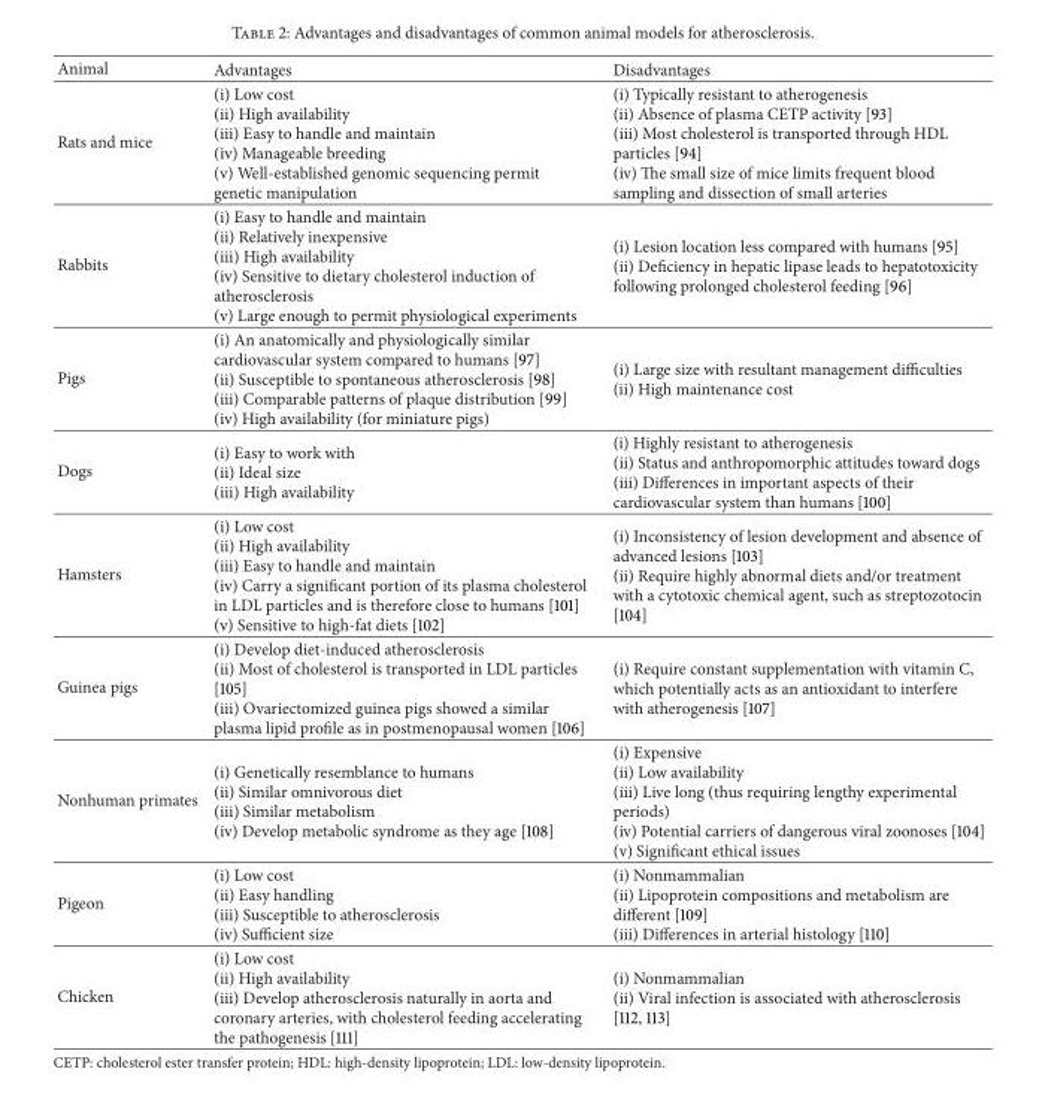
<table><thead><tr><td>Animal</td><td>Advantages</td><td>Disadvantages</td></tr></thead><tbody><tr><td>Rats and mice</td><td>(i) Low cost (ii) High availability (iii) Easy to handle and maintain (iv) Manageable breeding (v) Well-established genomic sequencing permit genetic manipulation</td><td>(i) Typically resistant to atherogenesis (ii) Absence of plasma CETP activity [93] (iii) Most cholesterol is transported through HDL particles [94] (iv) The small size of mice limits frequent blood sampling and dissection of small arteries</td></tr><tr><td>Rabbits</td><td>(i) Easy to handle and maintain (ii) Relatively inexpensive (iii) High availability (iv) Sensitive to dietary cholesterol induction of atherosclerosis (v) Large enough to permit physiological experiments</td><td>(i) Lesion location less compared with humans [95] (ii) Deficiency in hepatic lipase leads to hepatotoxicity following prolonged cholesterol feeding [96]</td></tr><tr><td>Pigs</td><td>(i) An anatomically and physiologically similar cardiovascular system compared to humans [97] (ii) Susceptible to spontaneous atherosclerosis [98] (iii) Comparable patterns of plaque distribution [99] (iv) High availability (for miniature pigs)</td><td>(i) Large size with resultant management difficulties (ii) High maintenance cost</td></tr><tr><td>Dogs</td><td>(i) Easy to work with (ii) Ideal size (iii) High availability</td><td>(i) Highly resistant to atherogenesis (ii) Status and anthropomorphic attitudes toward dogs (iii) Differences in important aspects of their cardiovascular system than humans [100]</td></tr><tr><td>Hamsters</td><td>(i) Low cost (ii) High availability (iii) Easy to handle and maintain (iv) Carry a significant portion of its plasma cholesterol in LDL particles and is therefore close to humans [101] (v) Sensitive to high-fat diets [102]</td><td>(i) Inconsistency of lesion development and absence of advanced lesions [103] (ii) Require highly abnormal diets and/or treatment with a cytotoxic chemical agent, such as streptozotocin [104]</td></tr><tr><td>Guinea pigs</td><td>(i) Develop diet-induced atherosclerosis (ii) Most of cholesterol is transported in LDL particles [105] (iii) Ovariectomized guinea pigs showed a similar plasma lipid profile as in postmenopausal women [106]</td><td>(i) Require constant supplementation with vitamin C, which potentially acts as an antioxidant to interfere with atherogenesis [107]</td></tr><tr><td>Nonhuman primates</td><td>(i) Genetically resemblance to humans (ii) Similar omnivorous diet (iii) Similar metabolism (iv) Develop metabolic syndrome as they age [108]</td><td>(i) Expensive (ii) Low availability (iii) Live long (thus requiring lengthy experimental periods) (iv) Potential carriers of dangerous viral zoonoses [104] (v) Significant ethical issues</td></tr><tr><td>Pigeon</td><td>(i) Low cost (ii) Easy handling (iii) Susceptible to atherosclerosis (iv) Sufficient size</td><td>(i) Nonmammalian (ii) Lipoprotein compositions and metabolism are different [109] (iii) Differences in arterial histology [110]</td></tr><tr><td>Chicken</td><td>(i) Low cost (ii) High availability (iii) Develop atherosclerosis naturally in aorta and coronary arteries, with cholesterol feeding accelerating the pathogenesis [111]</td><td>(i) Nonmammalian (ii) Viral infection is associated with atherosclerosis [112, 113]</td></tr></tbody></table>